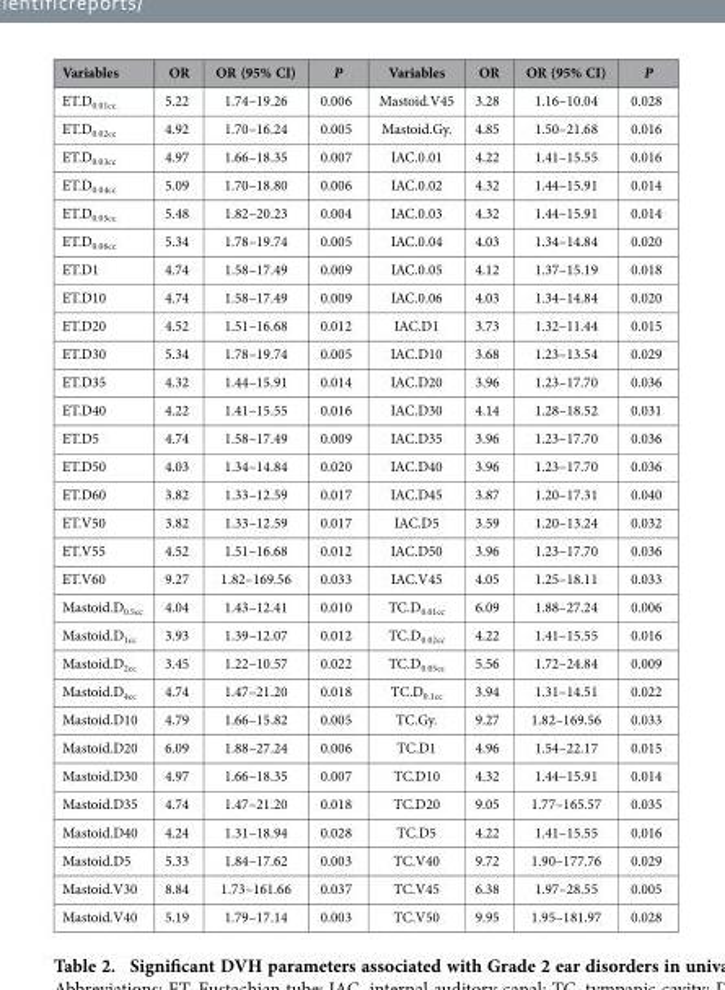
<table><thead><tr><td>Variables</td><td>OR</td><td>OR (95% CI)</td><td>P</td><td>Variables</td><td>OR</td><td>OR (95% CI)</td><td>P</td></tr></thead><tbody><tr><td>ET.D<sub>0.01cc</sub></td><td>5.22</td><td>1.74–19.26</td><td>0.006</td><td>Mastoid.V45</td><td>3.28</td><td>1.16–10.04</td><td>0.028</td></tr><tr><td>ET.D<sub>0.02cc</sub></td><td>4.92</td><td>1.70–16.24</td><td>0.005</td><td>Mastoid.Gy.</td><td>4.85</td><td>1.50–21.68</td><td>0.016</td></tr><tr><td>ET.D<sub>0.03cc</sub></td><td>4.97</td><td>1.66–18.35</td><td>0.007</td><td>IAC.0.01</td><td>4.22</td><td>1.41–15.55</td><td>0.016</td></tr><tr><td>ET.D<sub>0.04cc</sub></td><td>5.09</td><td>1.70–18.80</td><td>0.006</td><td>IAC.0.02</td><td>4.32</td><td>1.44–15.91</td><td>0.014</td></tr><tr><td>ET.D<sub>0.05cc</sub></td><td>5.48</td><td>1.82–20.23</td><td>0.004</td><td>IAC.0.03</td><td>4.32</td><td>1.44–15.91</td><td>0.014</td></tr><tr><td>ET.D<sub>0.06cc</sub></td><td>5.34</td><td>1.78–19.74</td><td>0.005</td><td>IAC.0.04</td><td>4.03</td><td>1.34–14.84</td><td>0.020</td></tr><tr><td>ET.D1</td><td>4.74</td><td>1.58–17.49</td><td>0.009</td><td>IAC.0.05</td><td>4.12</td><td>1.37–15.19</td><td>0.018</td></tr><tr><td>ET.D10</td><td>4.74</td><td>1.58–17.49</td><td>0.009</td><td>IAC.0.06</td><td>4.03</td><td>1.34–14.84</td><td>0.020</td></tr><tr><td>ET.D20</td><td>4.52</td><td>1.51–16.68</td><td>0.012</td><td>IAC.D1</td><td>3.73</td><td>1.32–11.44</td><td>0.015</td></tr><tr><td>ET.D30</td><td>5.34</td><td>1.78–19.74</td><td>0.005</td><td>IAC.D10</td><td>3.68</td><td>1.23–13.54</td><td>0.029</td></tr><tr><td>ET.D35</td><td>4.32</td><td>1.44–15.91</td><td>0.014</td><td>IAC.D20</td><td>3.96</td><td>1.23–17.70</td><td>0.036</td></tr><tr><td>ET.D40</td><td>4.22</td><td>1.41–15.55</td><td>0.016</td><td>IAC.D30</td><td>4.14</td><td>1.28–18.52</td><td>0.031</td></tr><tr><td>ET.D5</td><td>4.74</td><td>1.58–17.49</td><td>0.009</td><td>IAC.D35</td><td>3.96</td><td>1.23–17.70</td><td>0.036</td></tr><tr><td>ET.D50</td><td>4.03</td><td>1.34–14.84</td><td>0.020</td><td>IAC.D40</td><td>3.96</td><td>1.23–17.70</td><td>0.036</td></tr><tr><td>ET.D60</td><td>3.82</td><td>1.33–12.59</td><td>0.017</td><td>IAC.D45</td><td>3.87</td><td>1.20–17.31</td><td>0.040</td></tr><tr><td>ET.V50</td><td>3.82</td><td>1.33–12.59</td><td>0.017</td><td>IAC.D5</td><td>3.59</td><td>1.20–13.24</td><td>0.032</td></tr><tr><td>ET.V55</td><td>4.52</td><td>1.51–16.68</td><td>0.012</td><td>IAC.D50</td><td>3.96</td><td>1.23–17.70</td><td>0.036</td></tr><tr><td>ET.V60</td><td>9.27</td><td>1.82–169.56</td><td>0.033</td><td>IAC.V45</td><td>4.05</td><td>1.25–18.11</td><td>0.033</td></tr><tr><td>Mastoid.D<sub>0.5cc</sub></td><td>4.04</td><td>1.43–12.41</td><td>0.010</td><td>TC.D<sub>0.01cc</sub></td><td>6.09</td><td>1.88–27.24</td><td>0.006</td></tr><tr><td>Mastoid.D<sub>1cc</sub></td><td>3.93</td><td>1.39–12.07</td><td>0.012</td><td>TC.D<sub>0.02cc</sub></td><td>4.22</td><td>1.41–15.55</td><td>0.016</td></tr><tr><td>Mastoid.D<sub>2cc</sub></td><td>3.45</td><td>1.22–10.57</td><td>0.022</td><td>TC.D<sub>0.05cc</sub></td><td>5.56</td><td>1.72–24.84</td><td>0.009</td></tr><tr><td>Mastoid.D<sub>4cc</sub></td><td>4.74</td><td>1.47–21.20</td><td>0.018</td><td>TC.D<sub>0.1cc</sub></td><td>3.94</td><td>1.31–14.51</td><td>0.022</td></tr><tr><td>Mastoid.D10</td><td>4.79</td><td>1.66–15.82</td><td>0.005</td><td>TC.Gy.</td><td>9.27</td><td>1.82–169.56</td><td>0.033</td></tr><tr><td>Mastoid.D20</td><td>6.09</td><td>1.88–27.24</td><td>0.006</td><td>TC.D1</td><td>4.96</td><td>1.54–22.17</td><td>0.015</td></tr><tr><td>Mastoid.D30</td><td>4.97</td><td>1.66–18.35</td><td>0.007</td><td>TC.D10</td><td>4.32</td><td>1.44–15.91</td><td>0.014</td></tr><tr><td>Mastoid.D35</td><td>4.74</td><td>1.47–21.20</td><td>0.018</td><td>TC.D20</td><td>9.05</td><td>1.77–165.57</td><td>0.035</td></tr><tr><td>Mastoid.D40</td><td>4.24</td><td>1.31–18.94</td><td>0.028</td><td>TC.D5</td><td>4.22</td><td>1.41–15.55</td><td>0.016</td></tr><tr><td>Mastoid.D5</td><td>5.33</td><td>1.84–17.62</td><td>0.003</td><td>TC.V40</td><td>9.72</td><td>1.90–177.76</td><td>0.029</td></tr><tr><td>Mastoid.V30</td><td>8.84</td><td>1.73–161.66</td><td>0.037</td><td>TC.V45</td><td>6.38</td><td>1.97–28.55</td><td>0.005</td></tr><tr><td>Mastoid.V40</td><td>5.19</td><td>1.79–17.14</td><td>0.003</td><td>TC.V50</td><td>9.95</td><td>1.95–181.97</td><td>0.028</td></tr></tbody></table>